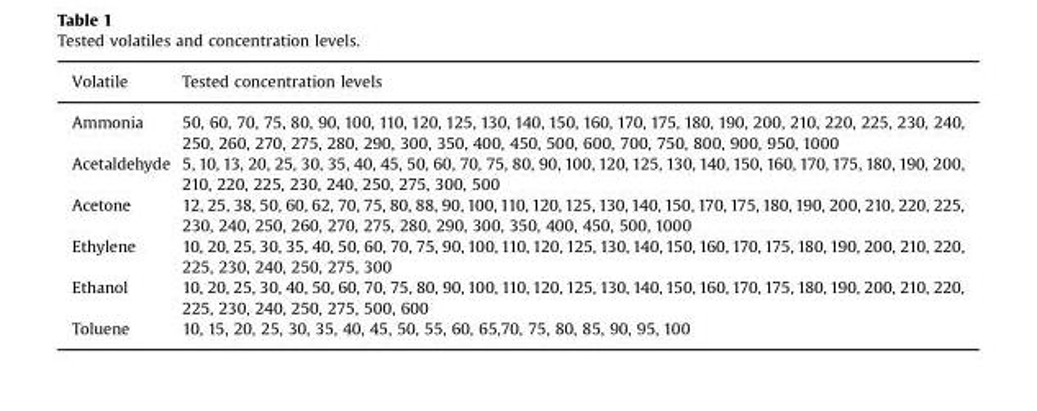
<table><thead><tr><td>Volatile</td><td>Tested concentration levels</td></tr></thead><tbody><tr><td>Ammonia</td><td>50, 60, 70, 75, 80, 90, 100, 110, 120, 125, 130, 140, 150, 160, 170, 175, 180, 190, 200, 210, 220, 225, 230, 240, 250, 260, 270, 275, 280, 290, 300, 350, 400, 450, 500, 600, 700, 750, 800, 900, 950, 1000</td></tr><tr><td>Acetaldehyde</td><td>5, 10, 13, 20, 25, 30, 35, 40, 45, 50, 60, 70, 75, 80, 90, 100, 120, 125, 130, 140, 150, 160, 170, 175, 180, 190, 200, 210, 220, 225, 230, 240, 250, 275, 300, 500</td></tr><tr><td>Acetone</td><td>12, 25, 38, 50, 60, 62, 70, 75, 80, 88, 90, 100, 110, 120, 125, 130, 140, 150, 170, 175, 180, 190, 200, 210, 220, 225, 230, 240, 250, 260, 270, 275, 280, 290, 300, 350, 400, 450, 500, 1000</td></tr><tr><td>Ethylene</td><td>10, 20, 25, 30, 35, 40, 50, 60, 70, 75, 90, 100, 110, 120, 125, 130, 140, 150, 160, 170, 175, 180, 190, 200, 210, 220, 225, 230, 240, 250, 275, 300</td></tr><tr><td>Ethanol</td><td>10, 20, 25, 30, 40, 50, 60, 70, 75, 80, 90, 100, 110, 120, 125, 130, 140, 150, 160, 170, 175, 180, 190, 200, 210, 220, 225, 230, 240, 250, 275, 500, 600</td></tr><tr><td>Toluene</td><td>10, 15, 20, 25, 30, 35, 40, 45, 50, 55, 60, 65,70, 75, 80, 85, 90, 95, 100</td></tr></tbody></table>